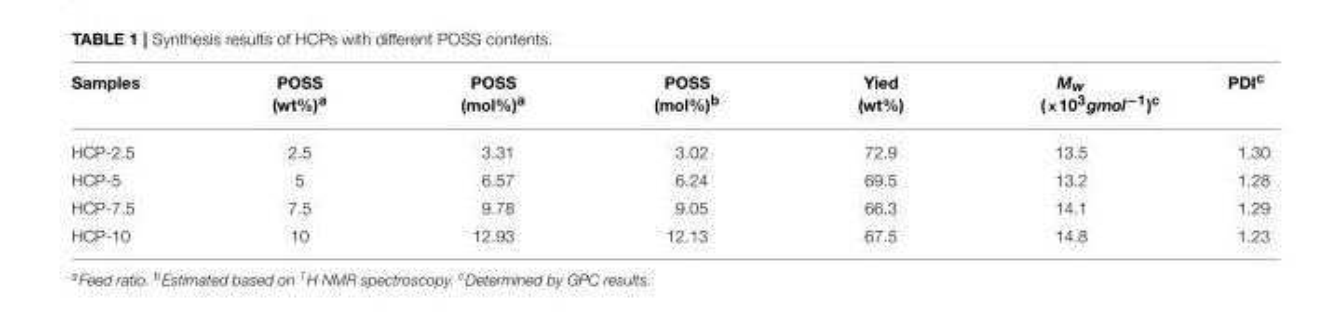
<table><thead><tr><td>Samples</td><td>POSS (wt%)<sup>a</sup></td><td>POSS (mol%)<sup>a</sup></td><td>POSS (mol%)<sup>b</sup></td><td>Yied (wt%)</td><td>Mw (×10<sup>3</sup>gmol<sup>−1</sup>)<sup>c</sup></td><td>PDI<sup>c</sup></td></tr></thead><tbody><tr><td>HCP-2.5</td><td>2.5</td><td>3.31</td><td>3.02</td><td>72.9</td><td>13.5</td><td>1.30</td></tr><tr><td>HCP-5</td><td>5</td><td>6.57</td><td>6.24</td><td>69.5</td><td>13.2</td><td>1.28</td></tr><tr><td>HCP-7.5</td><td>7.5</td><td>9.78</td><td>9.05</td><td>66.3</td><td>14.1</td><td>1.29</td></tr><tr><td>HCP-10</td><td>10</td><td>12.93</td><td>12.13</td><td>67.5</td><td>14.8</td><td>1.23</td></tr></tbody></table>